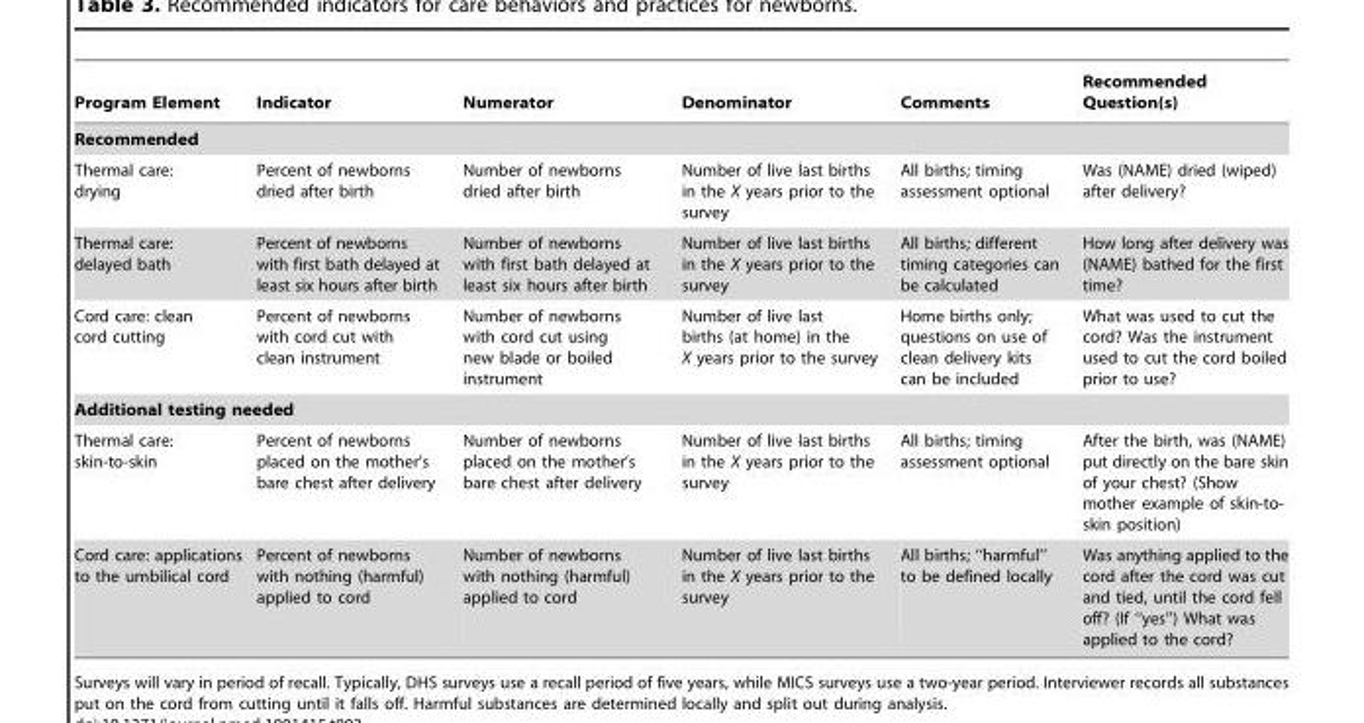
<table><thead><tr><td>Program Element</td><td>Indicator</td><td>Numerator</td><td>Denominator</td><td>Comments</td><td>Recommended Question(s)</td></tr></thead><tbody><tr><td colspan="6">Recommended</td></tr><tr><td>Thermal care: drying</td><td>Percent of newborns dried after birth</td><td>Number of newborns dried after birth</td><td>Number of live last births in the X years prior to the survey</td><td>All births; timing assessment optional</td><td>Was (NAME) dried (wiped) after delivery?</td></tr><tr><td>Thermal care: delayed bath</td><td>Percent of newborns with first bath delayed at least six hours after birth</td><td>Number of newborns with first bath delayed at least six hours after birth</td><td>Number of live last births in the X years prior to the survey</td><td>All births; different timing categories can be calculated</td><td>How long after delivery was (NAME) bathed for the first time?</td></tr><tr><td>Cord care: clean cord cutting</td><td>Percent of newborns with cord cut with clean instrument</td><td>Number of newborns with cord cut using new blade or boiled instrument</td><td>Number of live last births (at home) in the X years prior to the survey</td><td>Home births only; questions on use of clean delivery kits can be included</td><td>What was used to cut the cord? Was the instrument used to cut the cord boiled prior to use?</td></tr><tr><td colspan="6">Additional testing needed</td></tr><tr><td>Thermal care: skin-to-skin</td><td>Percent of newborns placed on the mother’s bare chest after delivery</td><td>Number of newborns placed on the mother’s bare chest after delivery</td><td>Number of live last births in the X years prior to the survey</td><td>All births; timing assessment optional</td><td>After the birth, was (NAME) put directly on the bare skin of your chest? (Show mother example of skin-to- skin position)</td></tr><tr><td>Cord care: applications to the umbilical cord</td><td>Percent of newborns with nothing (harmful) applied to cord</td><td>Number of newborns with nothing (harmful) applied to cord</td><td>Number of live last births in the X years prior to the survey</td><td>All births; ‘‘harmful’’ to be defined locally</td><td>Was anything applied to the cord after the cord was cut and tied, until the cord fell off? (If ‘‘yes’’) What was applied to the cord?</td></tr></tbody></table>